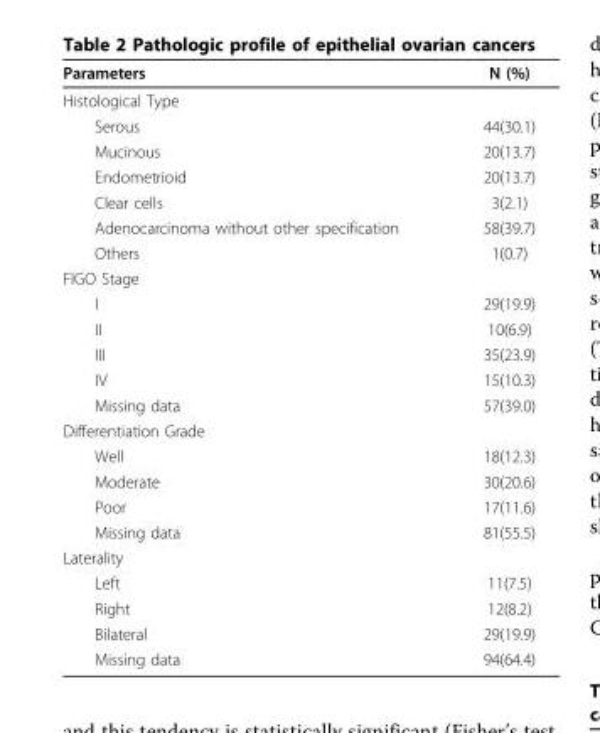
<table><thead><tr><td>Parameters</td><td>N (%)</td></tr></thead><tbody><tr><td colspan="2">Histological Type</td></tr><tr><td>Serous</td><td>44(30.1)</td></tr><tr><td>Mucinous</td><td>20(13.7)</td></tr><tr><td>Endometrioid</td><td>20(13.7)</td></tr><tr><td>Clear cells</td><td>3(2.1)</td></tr><tr><td>Adenocarcinoma without other specification</td><td>58(39.7)</td></tr><tr><td>Others</td><td>1(0.7)</td></tr><tr><td colspan="2">FIGO Stage</td></tr><tr><td>I</td><td>29(19.9)</td></tr><tr><td>II</td><td>10(6.9)</td></tr><tr><td>III</td><td>35(23.9)</td></tr><tr><td>IV</td><td>15(10.3)</td></tr><tr><td>Missing data</td><td>57(39.0)</td></tr><tr><td colspan="2">Differentiation Grade</td></tr><tr><td>Well</td><td>18(12.3)</td></tr><tr><td>Moderate</td><td>30(20.6)</td></tr><tr><td>Poor</td><td>17(11.6)</td></tr><tr><td>Missing data</td><td>81(55.5)</td></tr><tr><td colspan="2">Laterality</td></tr><tr><td>Left</td><td>11(7.5)</td></tr><tr><td>Right</td><td>12(8.2)</td></tr><tr><td>Bilateral</td><td>29(19.9)</td></tr><tr><td>Missing data</td><td>94(64.4)</td></tr></tbody></table>